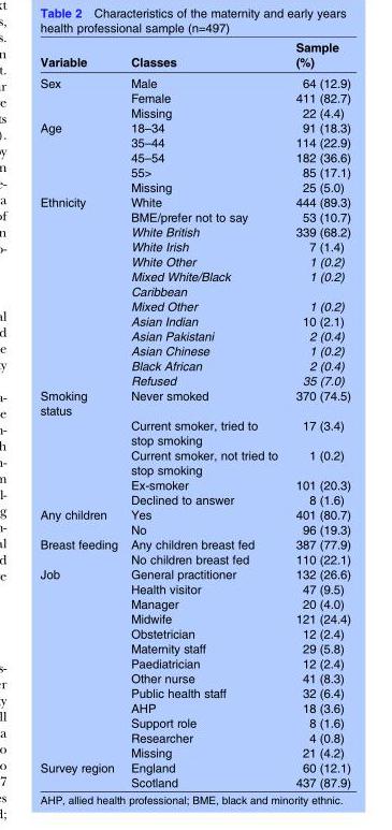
<table><thead><tr><td>Variable</td><td>Classes</td><td>Sample (%)</td></tr></thead><tbody><tr><td rowspan="3">Sex</td><td>Male</td><td>64 (12.9)</td></tr><tr><td>Female</td><td>411 (82.7)</td></tr><tr><td>Missing</td><td>22 (4.4)</td></tr><tr><td rowspan="5">Age</td><td>18–34</td><td>91 (18.3)</td></tr><tr><td>35–44</td><td>114 (22.9)</td></tr><tr><td>45–54</td><td>182 (36.6)</td></tr><tr><td>55&gt;</td><td>85 (17.1)</td></tr><tr><td>Missing</td><td>25 (5.0)</td></tr><tr><td rowspan="12">Ethnicity</td><td>White</td><td>444 (89.3)</td></tr><tr><td>BME/prefer not to say</td><td>53 (10.7)</td></tr><tr><td>White British</td><td>339 (68.2)</td></tr><tr><td>White Irish</td><td>7 (1.4)</td></tr><tr><td>White Other</td><td>1 (0.2)</td></tr><tr><td>Mixed White/Black Caribbean</td><td>1 (0.2)</td></tr><tr><td>Mixed Other</td><td>1 (0.2)</td></tr><tr><td>Asian Indian</td><td>10 (2.1)</td></tr><tr><td>Asian Pakistani</td><td>2 (0.4)</td></tr><tr><td>Asian Chinese</td><td>1 (0.2)</td></tr><tr><td>Black African</td><td>2 (0.4)</td></tr><tr><td>Refused</td><td>35 (7.0)</td></tr><tr><td rowspan="5">Smoking status</td><td>Never smoked</td><td>370 (74.5)</td></tr><tr><td>Current smoker, tried to stop smoking</td><td>17 (3.4)</td></tr><tr><td>Current smoker, not tried to stop smoking</td><td>1 (0.2)</td></tr><tr><td>Ex-smoker</td><td>101 (20.3)</td></tr><tr><td>Declined to answer</td><td>8 (1.6)</td></tr><tr><td rowspan="2">Any children</td><td>Yes</td><td>401 (80.7)</td></tr><tr><td>No</td><td>96 (19.3)</td></tr><tr><td rowspan="2">Breast feeding</td><td>Any children breast fed</td><td>387 (77.9)</td></tr><tr><td>No children breast fed</td><td>110 (22.1)</td></tr><tr><td rowspan="13">Job</td><td>General practitioner</td><td>132 (26.6)</td></tr><tr><td>Health visitor</td><td>47 (9.5)</td></tr><tr><td>Manager</td><td>20 (4.0)</td></tr><tr><td>Midwife</td><td>121 (24.4)</td></tr><tr><td>Obstetrician</td><td>12 (2.4)</td></tr><tr><td>Maternity staff</td><td>29 (5.8)</td></tr><tr><td>Paediatrician</td><td>12 (2.4)</td></tr><tr><td>Other nurse</td><td>41 (8.3)</td></tr><tr><td>Public health staff</td><td>32 (6.4)</td></tr><tr><td>AHP</td><td>18 (3.6)</td></tr><tr><td>Support role</td><td>8 (1.6)</td></tr><tr><td>Researcher</td><td>4 (0.8)</td></tr><tr><td>Missing</td><td>21 (4.2)</td></tr><tr><td rowspan="2">Survey region</td><td>England</td><td>60 (12.1)</td></tr><tr><td>Scotland</td><td>437 (87.9)</td></tr></tbody></table>